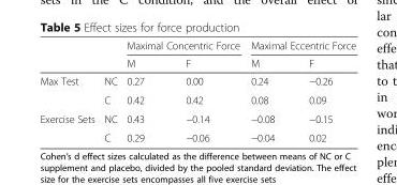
<table><thead><tr><td rowspan="2"></td><td rowspan="2"></td><td colspan="2">Maximal Concentric Force</td><td colspan="2">Maximal Eccentric Force</td></tr><tr><td>M</td><td>F</td><td>M</td><td>F</td></tr></thead><tbody><tr><td rowspan="2">Max Test</td><td>NC</td><td>0.27</td><td>0.00</td><td>0.24</td><td>−0.26</td></tr><tr><td>C</td><td>0.42</td><td>0.42</td><td>0.08</td><td>0.09</td></tr><tr><td rowspan="2">Exercise Sets</td><td>NC</td><td>0.43</td><td>−0.14</td><td>−0.08</td><td>−0.15</td></tr><tr><td>C</td><td>0.29</td><td>−0.06</td><td>−0.04</td><td>0.02</td></tr></tbody></table>